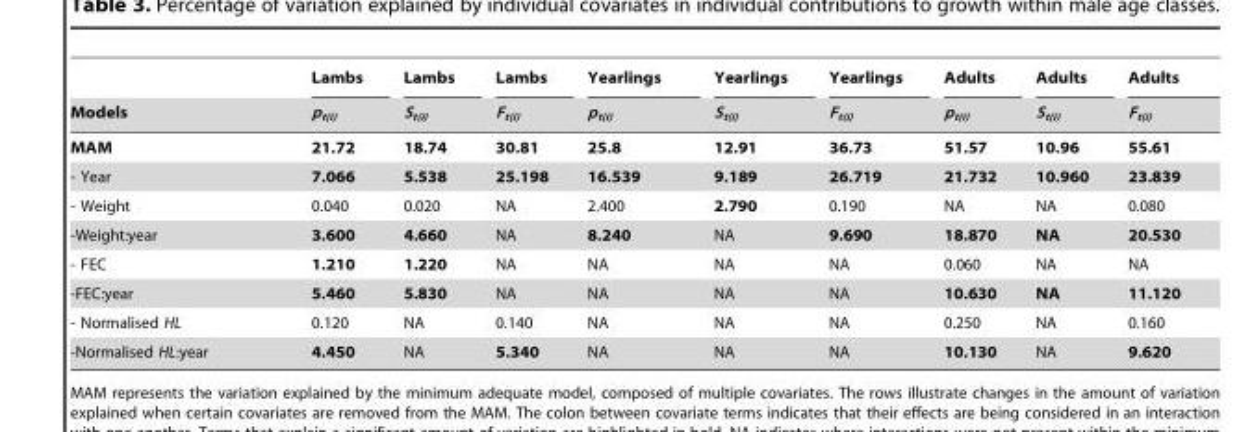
<table><thead><tr><td rowspan="2">Models</td><td rowspan="2">Lambs p<sub>t(i)</sub></td><td rowspan="2">Lambs S<sub>t(i)</sub></td><td rowspan="2">Lambs F<sub>t(i)</sub></td><td rowspan="2">Yearlings p<sub>t(i)</sub></td><td rowspan="2">Yearlings S<sub>t(i)</sub></td><td rowspan="2">Yearlings F<sub>t(i)</sub></td><td rowspan="2">Adults p<sub>t(i)</sub></td><td rowspan="2">Adults S<sub>t(i)</sub></td><td rowspan="2">Adults F<sub>t(i)</sub></td></tr><tr></tr></thead><tbody><tr><td>MAM</td><td>21.72</td><td>18.74</td><td>30.81</td><td>25.8</td><td>12.91</td><td>36.73</td><td>51.57</td><td>10.96</td><td>55.61</td></tr><tr><td>- Year</td><td>7.066</td><td>5.538</td><td>25.198</td><td>16.539</td><td>9.189</td><td>26.719</td><td>21.732</td><td>10.960</td><td>23.839</td></tr><tr><td>- Weight</td><td>0.040</td><td>0.020</td><td>NA</td><td>2.400</td><td>2.790</td><td>0.190</td><td>NA</td><td>NA</td><td>0.080</td></tr><tr><td>-Weight:year</td><td>3.600</td><td>4.660</td><td>NA</td><td>8.240</td><td>NA</td><td>9.690</td><td>18.870</td><td>NA</td><td>20.530</td></tr><tr><td>- FEC</td><td>1.210</td><td>1.220</td><td>NA</td><td>NA</td><td>NA</td><td>NA</td><td>0.060</td><td>NA</td><td>NA</td></tr><tr><td>-FEC:year</td><td>5.460</td><td>5.830</td><td>NA</td><td>NA</td><td>NA</td><td>NA</td><td>10.630</td><td>NA</td><td>11.120</td></tr><tr><td>- Normalised HL</td><td>0.120</td><td>NA</td><td>0.140</td><td>NA</td><td>NA</td><td>NA</td><td>0.250</td><td>NA</td><td>0.160</td></tr><tr><td>-Normalised HL:year</td><td>4.450</td><td>NA</td><td>5.340</td><td>NA</td><td>NA</td><td>NA</td><td>10.130</td><td>NA</td><td>9.620</td></tr></tbody></table>